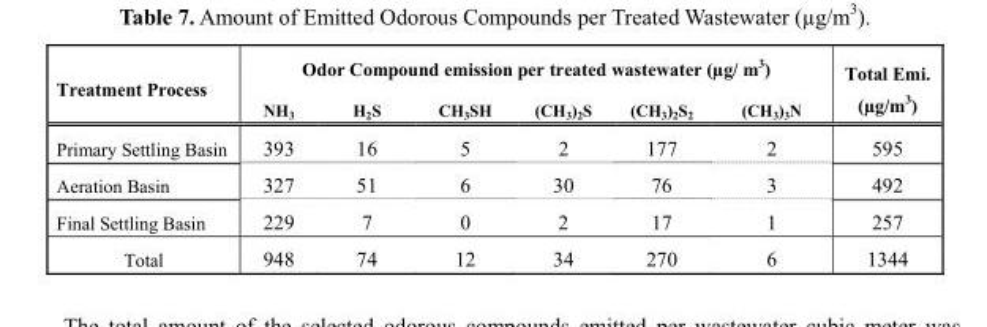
<table><thead><tr><td rowspan="2">Treatment Process</td><td colspan="6">Odor Compound emission per treated wastewater (µg/ m3)</td><td rowspan="2">Total Emi. (µg/m3)</td></tr><tr><td>NH3</td><td>H2S</td><td>CH3SH</td><td>(CH3)2S</td><td>(CH3)2S2</td><td>(CH3)3N</td></tr></thead><tbody><tr><td>Primary Settling Basin</td><td>393</td><td>16</td><td>5</td><td>2</td><td>177</td><td>2</td><td>595</td></tr><tr><td>Aeration Basin</td><td>327</td><td>51</td><td>6</td><td>30</td><td>76</td><td>3</td><td>492</td></tr><tr><td>Final Settling Basin</td><td>229</td><td>7</td><td>0</td><td>2</td><td>17</td><td>1</td><td>257</td></tr><tr><td>Total</td><td>948</td><td>74</td><td>12</td><td>34</td><td>270</td><td>6</td><td>1344</td></tr></tbody></table>